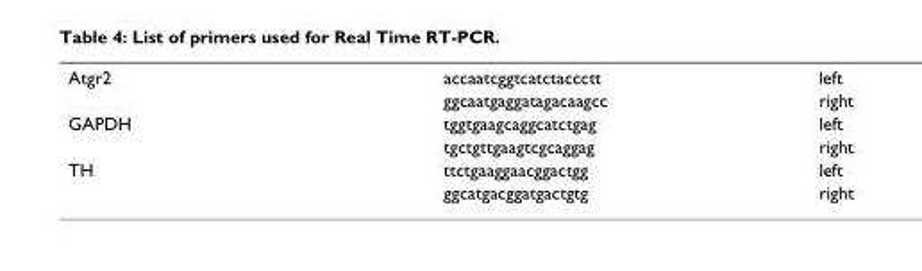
<table><tbody><tr><td rowspan="2">Atgr2</td><td>accaatcggtcatctaccctt</td><td>left</td></tr><tr><td>ggcaatgaggatagacaagcc</td><td>right</td></tr><tr><td rowspan="2">GAPDH</td><td>tggtgaagcaggcatctgag</td><td>left</td></tr><tr><td>tgctgttgaagtcgcaggag</td><td>right</td></tr><tr><td rowspan="2">TH</td><td>ttctgaaggaacggactgg</td><td>left</td></tr><tr><td>ggcatgacggatgactgtg</td><td>right</td></tr></tbody></table>